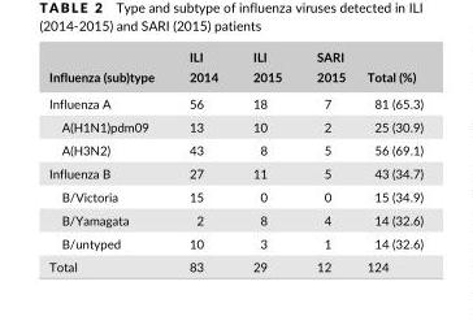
<table><thead><tr><td rowspan="2">Influenza (sub)type</td><td rowspan="2">ILI 2014</td><td rowspan="2">ILI 2015</td><td rowspan="2">SARI 2015</td><td rowspan="2">Total (%)</td></tr><tr></tr></thead><tbody><tr><td>Influenza A</td><td>56</td><td>18</td><td>7</td><td>81 (65.3)</td></tr><tr><td>A(H1N1)pdm09</td><td>13</td><td>10</td><td>2</td><td>25 (30.9)</td></tr><tr><td>A(H3N2)</td><td>43</td><td>8</td><td>5</td><td>56 (69.1)</td></tr><tr><td>Influenza B</td><td>27</td><td>11</td><td>5</td><td>43 (34.7)</td></tr><tr><td>B/Victoria</td><td>15</td><td>0</td><td>0</td><td>15 (34.9)</td></tr><tr><td>B/Yamagata</td><td>2</td><td>8</td><td>4</td><td>14 (32.6)</td></tr><tr><td>B/untyped</td><td>10</td><td>3</td><td>1</td><td>14 (32.6)</td></tr><tr><td>Total</td><td>83</td><td>29</td><td>12</td><td>124</td></tr></tbody></table>